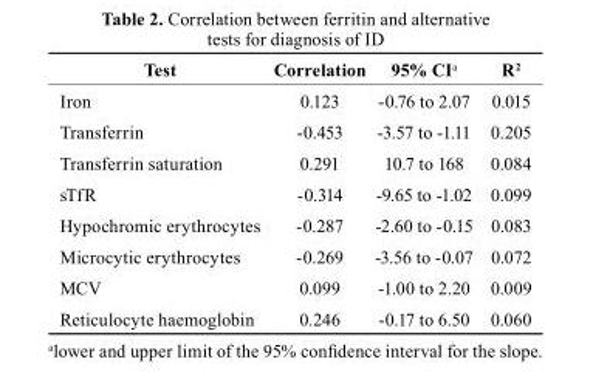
<table><thead><tr><td>Test</td><td>Correlation</td><td>95% CI<sup>a</sup></td><td>r<sup>2</sup></td></tr></thead><tbody><tr><td>Iron</td><td>0.123</td><td>-0.76 to 2.07</td><td>0.015</td></tr><tr><td>Transferrin</td><td>-0.453</td><td>-3.57 to -1.11</td><td>0.205</td></tr><tr><td>Transferrin saturation</td><td>0.291</td><td>10.7 to 168</td><td>0.084</td></tr><tr><td>sTfR</td><td>-0.314</td><td>-9.65 to -1.02</td><td>0.099</td></tr><tr><td>Hypochromic erythrocytes</td><td>-0.287</td><td>-2.60 to -0.15</td><td>0.083</td></tr><tr><td>Microcytic erythrocytes</td><td>-0.269</td><td>-3.56 to -0.07</td><td>0.072</td></tr><tr><td>MCV</td><td>0.099</td><td>-1.00 to 2.20</td><td>0.009</td></tr><tr><td>Reticulocyte haemoglobin</td><td>0.246</td><td>-0.17 to 6.50</td><td>0.060</td></tr></tbody></table>